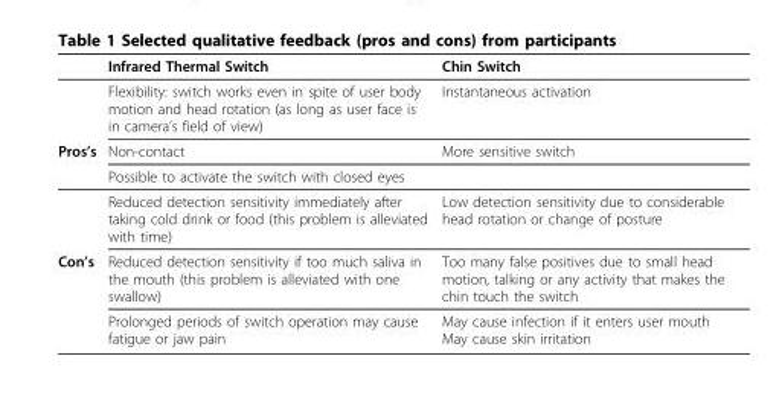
<table><thead><tr><td></td><td>Infrared Thermal Switch</td><td>Chin Switch</td></tr></thead><tbody><tr><td></td><td>Flexibility: switch works even in spite of user body motion and head rotation (as long as user face is in camera’s field of view)</td><td>Instantaneous activation</td></tr><tr><td rowspan="3">Pros’s</td><td>Non-contact</td><td>More sensitive switch</td></tr><tr><td>Possible to activate the switch with closed eyes</td><td></td></tr><tr><td>Reduced detection sensitivity immediately after taking cold drink or food (this problem is alleviated with time)</td><td>Low detection sensitivity due to considerable head rotation or change of posture</td></tr><tr><td rowspan="2">Con’s</td><td>Reduced detection sensitivity if too much saliva in the mouth (this problem is alleviated with one swallow)</td><td>Too many false positives due to small head motion, talking or any activity that makes the chin touch the switch</td></tr><tr><td>Prolonged periods of switch operation may cause fatigue or jaw pain</td><td>May cause infection if it enters user mouth May cause skin irritation</td></tr></tbody></table>